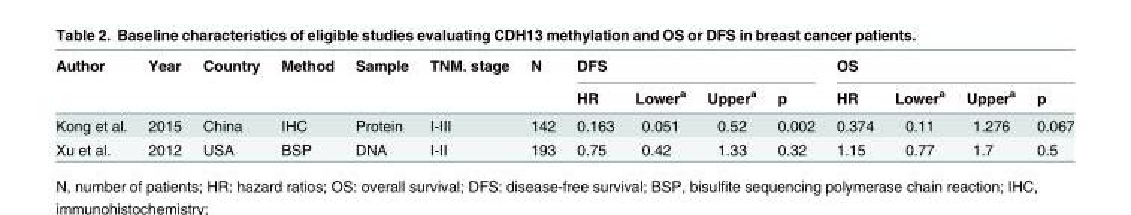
<table><thead><tr><td rowspan="2">Author</td><td rowspan="2">Year</td><td rowspan="2">Country</td><td rowspan="2">Method</td><td rowspan="2">Sample</td><td rowspan="2">TNM. stage</td><td rowspan="2">N</td><td colspan="4">DFS</td><td colspan="4">OS</td></tr><tr><td>HR</td><td>Lower<sup>a</sup></td><td>Upper<sup>a</sup></td><td>p</td><td>HR</td><td>Lower<sup>a</sup></td><td>Upper<sup>a</sup></td><td>p</td></tr></thead><tbody><tr><td>Kong et al.</td><td>2015</td><td>China</td><td>IHC</td><td>Protein</td><td>I-III</td><td>142</td><td>0.163</td><td>0.051</td><td>0.52</td><td>0.002</td><td>0.374</td><td>0.11</td><td>1.276</td><td>0.067</td></tr><tr><td>Xu et al.</td><td>2012</td><td>USA</td><td>BSP</td><td>DNA</td><td>I-II</td><td>193</td><td>0.75</td><td>0.42</td><td>1.33</td><td>0.32</td><td>1.15</td><td>0.77</td><td>1.7</td><td>0.5</td></tr></tbody></table>